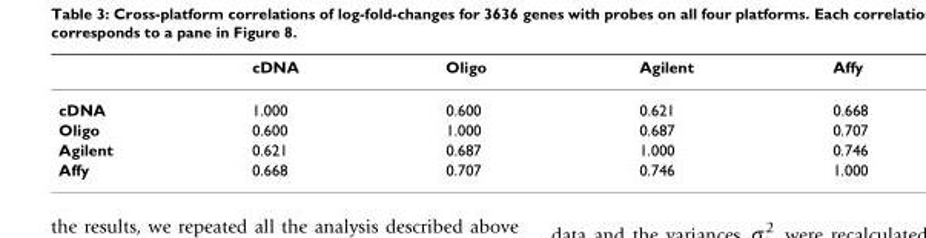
<table><thead><tr><td></td><td>cDNA</td><td>Oligo</td><td>Agilent</td><td>Affy</td></tr></thead><tbody><tr><td>cDNA</td><td>1.000</td><td>0.600</td><td>0.621</td><td>0.668</td></tr><tr><td>Oligo</td><td>0.600</td><td>1.000</td><td>0.687</td><td>0.707</td></tr><tr><td>Agilent</td><td>0.621</td><td>0.687</td><td>1.000</td><td>0.746</td></tr><tr><td>Affy</td><td>0.668</td><td>0.707</td><td>0.746</td><td>1.000</td></tr></tbody></table>